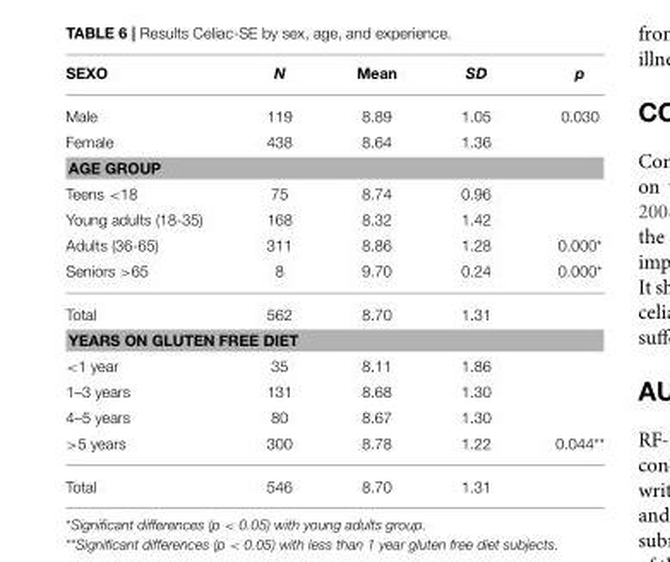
<table><thead><tr><td>SEXO</td><td>N</td><td>Mean</td><td>SD</td><td>p</td></tr></thead><tbody><tr><td>Male</td><td>119</td><td>8.89</td><td>1.05</td><td>0.030</td></tr><tr><td>Female</td><td>438</td><td>8.64</td><td>1.36</td><td></td></tr><tr><td colspan="5">AGE GROUP</td></tr><tr><td>Teens &lt;18</td><td>75</td><td>8.74</td><td>0.96</td><td></td></tr><tr><td>Young adults (18-35)</td><td>168</td><td>8.32</td><td>1.42</td><td></td></tr><tr><td>Adults (36-65)</td><td>311</td><td>8.86</td><td>1.28</td><td>0.000*</td></tr><tr><td>Seniors &gt;65</td><td>8</td><td>9.70</td><td>0.24</td><td>0.000*</td></tr><tr><td>Total</td><td>562</td><td>8.70</td><td>1.31</td><td></td></tr><tr><td colspan="5">YEARS ON GLUTEN FREE DIET</td></tr><tr><td>&lt;1 year</td><td>35</td><td>8.11</td><td>1.86</td><td></td></tr><tr><td>1–3 years</td><td>131</td><td>8.68</td><td>1.30</td><td></td></tr><tr><td>4–5 years</td><td>80</td><td>8.67</td><td>1.30</td><td></td></tr><tr><td>&gt;5 years</td><td>300</td><td>8.78</td><td>1.22</td><td>0.044**</td></tr><tr><td>Total</td><td>546</td><td>8.70</td><td>1.31</td><td></td></tr></tbody></table>